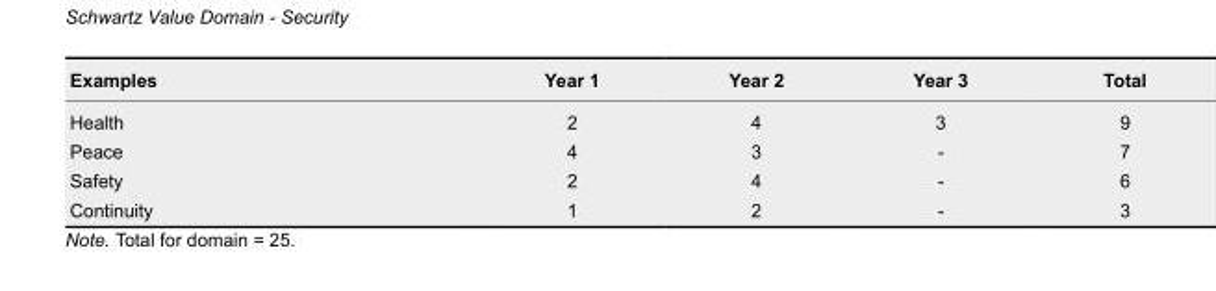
<table><thead><tr><td>Examples</td><td>Year 1</td><td>Year 2</td><td>Year 3</td><td>Total</td></tr></thead><tbody><tr><td>Health</td><td>2</td><td>4</td><td>3</td><td>9</td></tr><tr><td>Peace</td><td>4</td><td>3</td><td>-</td><td>7</td></tr><tr><td>Safety</td><td>2</td><td>4</td><td>-</td><td>6</td></tr><tr><td>Continuity</td><td>1</td><td>2</td><td>-</td><td>3</td></tr></tbody></table>